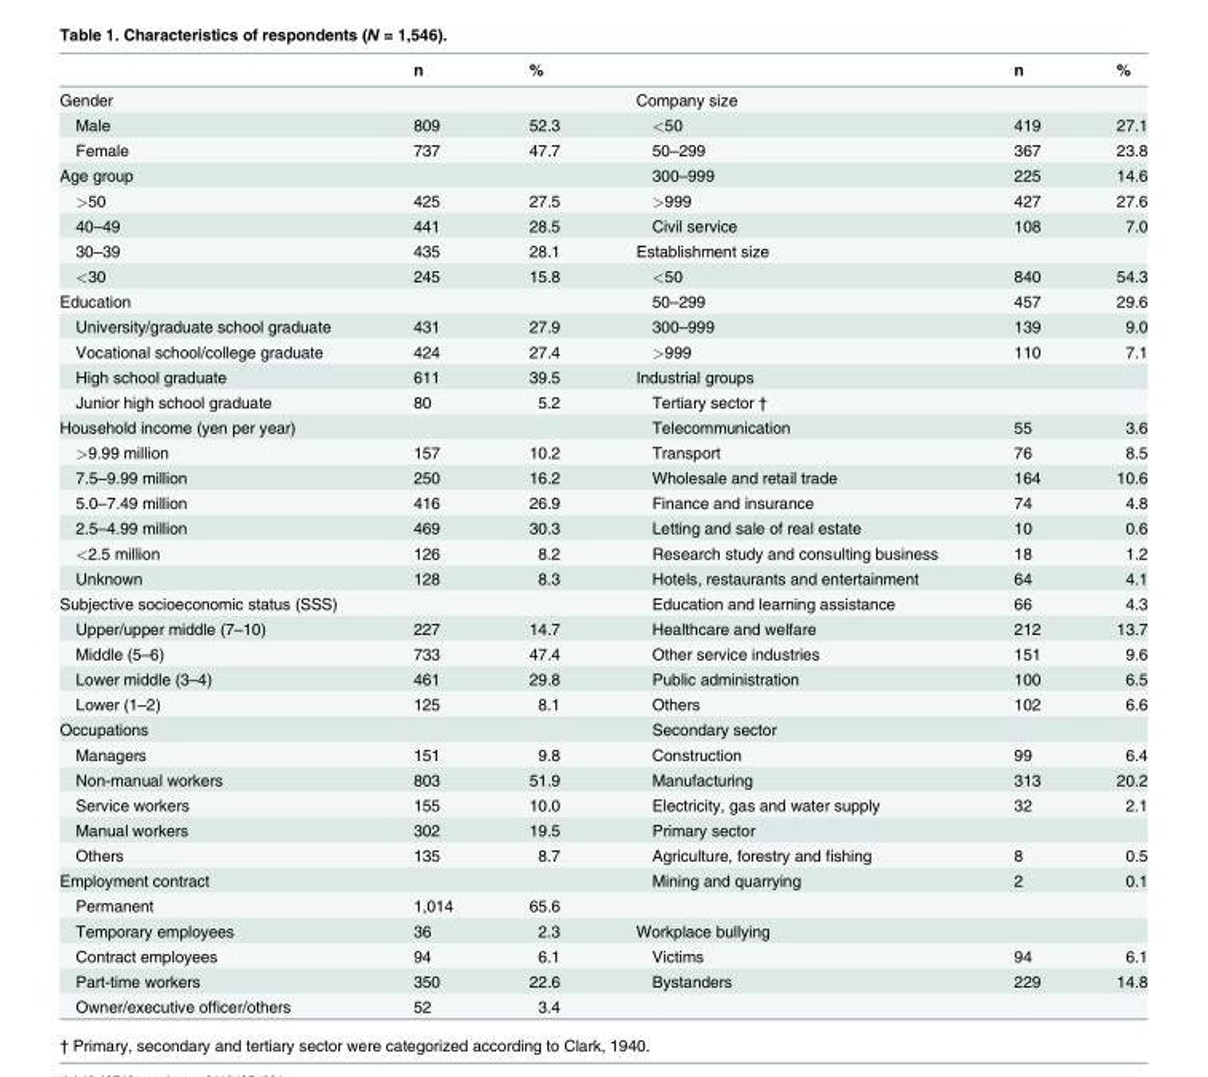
<table><thead><tr><td></td><td>n</td><td>%</td><td></td><td>n</td><td>%</td></tr></thead><tbody><tr><td>Gender</td><td></td><td></td><td>Company size</td><td></td><td></td></tr><tr><td>Male</td><td>809</td><td>52.3</td><td>&lt;50</td><td>419</td><td>27.1</td></tr><tr><td>Female</td><td>737</td><td>47.7</td><td>50–299</td><td>367</td><td>23.8</td></tr><tr><td>Age group</td><td></td><td></td><td>300–999</td><td>225</td><td>14.6</td></tr><tr><td>&gt;50</td><td>425</td><td>27.5</td><td>&gt;999</td><td>427</td><td>27.6</td></tr><tr><td>40–49</td><td>441</td><td>28.5</td><td>Civil service</td><td>108</td><td>7.0</td></tr><tr><td>30–39</td><td>435</td><td>28.1</td><td>Establishment size</td><td></td><td></td></tr><tr><td>&lt;30</td><td>245</td><td>15.8</td><td>&lt;50</td><td>840</td><td>54.3</td></tr><tr><td>Education</td><td></td><td></td><td>50–299</td><td>457</td><td>29.6</td></tr><tr><td>University/graduate school graduate</td><td>431</td><td>27.9</td><td>300–999</td><td>139</td><td>9.0</td></tr><tr><td>Vocational school/college graduate</td><td>424</td><td>27.4</td><td>&gt;999</td><td>110</td><td>7.1</td></tr><tr><td>High school graduate</td><td>611</td><td>39.5</td><td>Industrial groups</td><td></td><td></td></tr><tr><td>Junior high school graduate</td><td>80</td><td>5.2</td><td>Tertiary sector †</td><td></td><td></td></tr><tr><td>Household income (yen per year)</td><td></td><td></td><td>Telecommunication</td><td>55</td><td>3.6</td></tr><tr><td>&gt;9.99 million</td><td>157</td><td>10.2</td><td>Transport</td><td>76</td><td>8.5</td></tr><tr><td>7.5–9.99 million</td><td>250</td><td>16.2</td><td>Wholesale and retail trade</td><td>164</td><td>10.6</td></tr><tr><td>5.0–7.49 million</td><td>416</td><td>26.9</td><td>Finance and insurance</td><td>74</td><td>4.8</td></tr><tr><td>2.5–4.99 million</td><td>469</td><td>30.3</td><td>Letting and sale of real estate</td><td>10</td><td>0.6</td></tr><tr><td>&lt;2.5 million</td><td>126</td><td>8.2</td><td>Research study and consulting business</td><td>18</td><td>1.2</td></tr><tr><td>Unknown</td><td>128</td><td>8.3</td><td>Hotels, restaurants and entertainment</td><td>64</td><td>4.1</td></tr><tr><td>Subjective socioeconomic status (SSS)</td><td></td><td></td><td>Education and learning assistance</td><td>66</td><td>4.3</td></tr><tr><td>Upper/upper middle (7–10)</td><td>227</td><td>14.7</td><td>Healthcare and welfare</td><td>212</td><td>13.7</td></tr><tr><td>Middle (5–6)</td><td>733</td><td>47.4</td><td>Other service industries</td><td>151</td><td>9.6</td></tr><tr><td>Lower middle (3–4)</td><td>461</td><td>29.8</td><td>Public administration</td><td>100</td><td>6.5</td></tr><tr><td>Lower (1–2)</td><td>125</td><td>8.1</td><td>Others</td><td>102</td><td>6.6</td></tr><tr><td>Occupations</td><td></td><td></td><td>Secondary sector</td><td></td><td></td></tr><tr><td>Managers</td><td>151</td><td>9.8</td><td>Construction</td><td>99</td><td>6.4</td></tr><tr><td>Non-manual workers</td><td>803</td><td>51.9</td><td>Manufacturing</td><td>313</td><td>20.2</td></tr><tr><td>Service workers</td><td>155</td><td>10.0</td><td>Electricity, gas and water supply</td><td>32</td><td>2.1</td></tr><tr><td>Manual workers</td><td>302</td><td>19.5</td><td>Primary sector</td><td></td><td></td></tr><tr><td>Others</td><td>135</td><td>8.7</td><td>Agriculture, forestry and fishing</td><td>8</td><td>0.5</td></tr><tr><td>Employment contract</td><td></td><td></td><td>Mining and quarrying</td><td>2</td><td>0.1</td></tr><tr><td>Permanent</td><td>1,014</td><td>65.6</td><td></td><td></td><td></td></tr><tr><td>Temporary employees</td><td>36</td><td>2.3</td><td>Workplace bullying</td><td></td><td></td></tr><tr><td>Contract employees</td><td>94</td><td>6.1</td><td>Victims</td><td>94</td><td>6.1</td></tr><tr><td>Part-time workers</td><td>350</td><td>22.6</td><td>Bystanders</td><td>229</td><td>14.8</td></tr><tr><td>Owner/executive officer/others</td><td>52</td><td>3.4</td><td></td><td></td><td></td></tr></tbody></table>